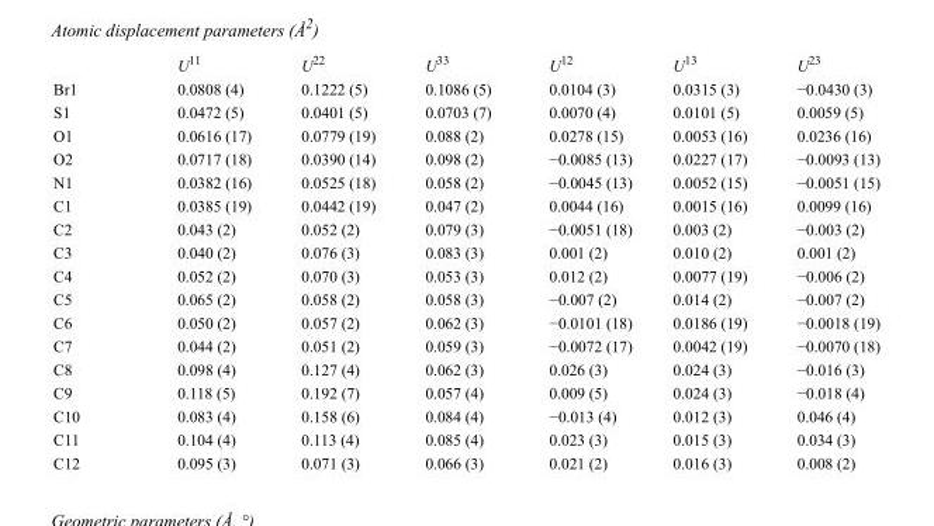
<table><thead><tr><td></td><td>U<sup>11</sup></td><td>U<sup>22</sup></td><td>U<sup>33</sup></td><td>U<sup>12</sup></td><td>U<sup>13</sup></td><td>U<sup>23</sup></td></tr></thead><tbody><tr><td>Br1</td><td>0.0808 (4)</td><td>0.1222 (5)</td><td>0.1086 (5)</td><td>0.0104 (3)</td><td>0.0315 (3)</td><td>−0.0430 (3)</td></tr><tr><td>S1</td><td>0.0472 (5)</td><td>0.0401 (5)</td><td>0.0703 (7)</td><td>0.0070 (4)</td><td>0.0101 (5)</td><td>0.0059 (5)</td></tr><tr><td>O1</td><td>0.0616 (17)</td><td>0.0779 (19)</td><td>0.088 (2)</td><td>0.0278 (15)</td><td>0.0053 (16)</td><td>0.0236 (16)</td></tr><tr><td>O2</td><td>0.0717 (18)</td><td>0.0390 (14)</td><td>0.098 (2)</td><td>−0.0085 (13)</td><td>0.0227 (17)</td><td>−0.0093 (13)</td></tr><tr><td>N1</td><td>0.0382 (16)</td><td>0.0525 (18)</td><td>0.058 (2)</td><td>−0.0045 (13)</td><td>0.0052 (15)</td><td>−0.0051 (15)</td></tr><tr><td>C1</td><td>0.0385 (19)</td><td>0.0442 (19)</td><td>0.047 (2)</td><td>0.0044 (16)</td><td>0.0015 (16)</td><td>0.0099 (16)</td></tr><tr><td>C2</td><td>0.043 (2)</td><td>0.052 (2)</td><td>0.079 (3)</td><td>−0.0051 (18)</td><td>0.003 (2)</td><td>−0.003 (2)</td></tr><tr><td>C3</td><td>0.040 (2)</td><td>0.076 (3)</td><td>0.083 (3)</td><td>0.001 (2)</td><td>0.010 (2)</td><td>0.001 (2)</td></tr><tr><td>C4</td><td>0.052 (2)</td><td>0.070 (3)</td><td>0.053 (3)</td><td>0.012 (2)</td><td>0.0077 (19)</td><td>−0.006 (2)</td></tr><tr><td>C5</td><td>0.065 (2)</td><td>0.058 (2)</td><td>0.058 (3)</td><td>−0.007 (2)</td><td>0.014 (2)</td><td>−0.007 (2)</td></tr><tr><td>C6</td><td>0.050 (2)</td><td>0.057 (2)</td><td>0.062 (3)</td><td>−0.0101 (18)</td><td>0.0186 (19)</td><td>−0.0018 (19)</td></tr><tr><td>C7</td><td>0.044 (2)</td><td>0.051 (2)</td><td>0.059 (3)</td><td>−0.0072 (17)</td><td>0.0042 (19)</td><td>−0.0070 (18)</td></tr><tr><td>C8</td><td>0.098 (4)</td><td>0.127 (4)</td><td>0.062 (3)</td><td>0.026 (3)</td><td>0.024 (3)</td><td>−0.016 (3)</td></tr><tr><td>C9</td><td>0.118 (5)</td><td>0.192 (7)</td><td>0.057 (4)</td><td>0.009 (5)</td><td>0.024 (3)</td><td>−0.018 (4)</td></tr><tr><td>C10</td><td>0.083 (4)</td><td>0.158 (6)</td><td>0.084 (4)</td><td>−0.013 (4)</td><td>0.012 (3)</td><td>0.046 (4)</td></tr><tr><td>C11</td><td>0.104 (4)</td><td>0.113 (4)</td><td>0.085 (4)</td><td>0.023 (3)</td><td>0.015 (3)</td><td>0.034 (3)</td></tr><tr><td>C12</td><td>0.095 (3)</td><td>0.071 (3)</td><td>0.066 (3)</td><td>0.021 (2)</td><td>0.016 (3)</td><td>0.008 (2)</td></tr></tbody></table>